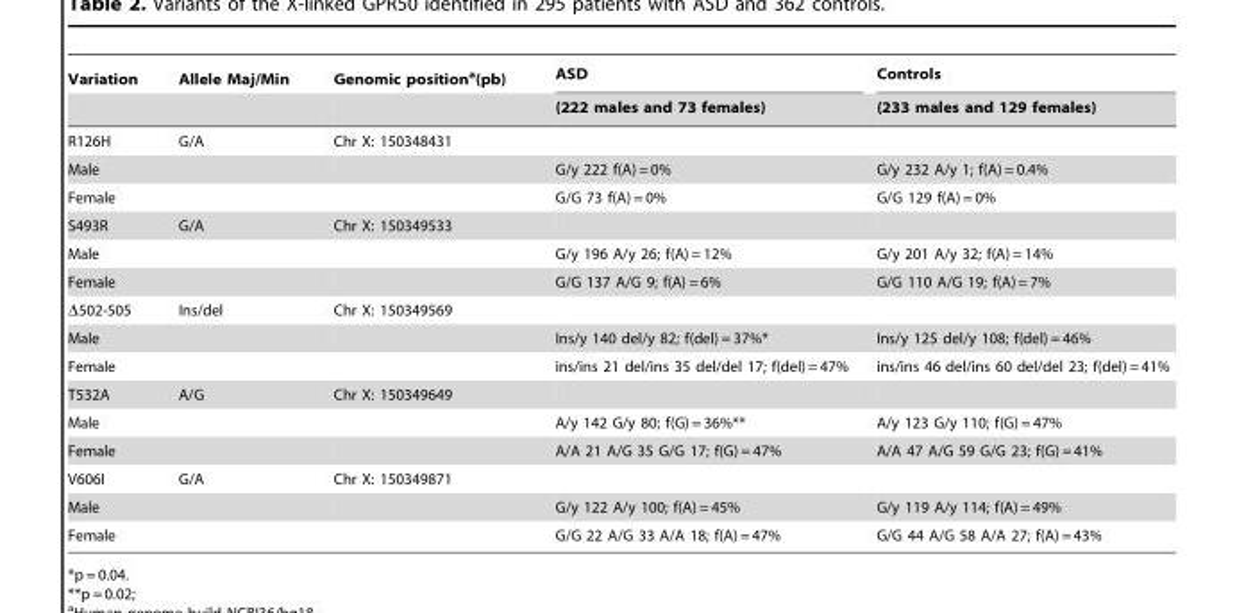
<table><thead><tr><td rowspan="2">Variation</td><td rowspan="2">Allele Maj/Min</td><td rowspan="2">Genomic position<sup>a</sup>(pb)</td><td rowspan="2">ASD (222 males and 73 females)</td><td rowspan="2">Controls (233 males and 129 females)</td></tr><tr></tr></thead><tbody><tr><td>R126H</td><td>G/A</td><td>Chr X: 150348431</td><td></td><td></td></tr><tr><td>Male</td><td></td><td></td><td>G/y 222 f(A) = 0%</td><td>G/y 232 A/y 1; f(A) = 0.4%</td></tr><tr><td>Female</td><td></td><td></td><td>G/G 73 f(A) = 0%</td><td>G/G 129 f(A) = 0%</td></tr><tr><td>S493R</td><td>G/A</td><td>Chr X: 150349533</td><td></td><td></td></tr><tr><td>Male</td><td></td><td></td><td>G/y 196 A/y 26; f(A) = 12%</td><td>G/y 201 A/y 32; f(A) = 14%</td></tr><tr><td>Female</td><td></td><td></td><td>G/G 137 A/G 9; f(A) = 6%</td><td>G/G 110 A/G 19; f(A) = 7%</td></tr><tr><td>Δ502-505</td><td>Ins/del</td><td>Chr X: 150349569</td><td></td><td></td></tr><tr><td>Male</td><td></td><td></td><td>Ins/y 140 del/y 82; f(del) = 37%*</td><td>Ins/y 125 del/y 108; f(del) = 46%</td></tr><tr><td>Female</td><td></td><td></td><td>ins/ins 21 del/ins 35 del/del 17; f(del) = 47%</td><td>ins/ins 46 del/ins 60 del/del 23; f(del) = 41%</td></tr><tr><td>T532A</td><td>A/G</td><td>Chr X: 150349649</td><td></td><td></td></tr><tr><td>Male</td><td></td><td></td><td>A/y 142 G/y 80; f(G) = 36%**</td><td>A/y 123 G/y 110; f(G) = 47%</td></tr><tr><td>Female</td><td></td><td></td><td>A/A 21 A/G 35 G/G 17; f(G) = 47%</td><td>A/A 47 A/G 59 G/G 23; f(G) = 41%</td></tr><tr><td>V606I</td><td>G/A</td><td>Chr X: 150349871</td><td></td><td></td></tr><tr><td>Male</td><td></td><td></td><td>G/y 122 A/y 100; f(A) = 45%</td><td>G/y 119 A/y 114; f(A) = 49%</td></tr><tr><td>Female</td><td></td><td></td><td>G/G 22 A/G 33 A/A 18; f(A) = 47%</td><td>G/G 44 A/G 58 A/A 27; f(A) = 43%</td></tr></tbody></table>